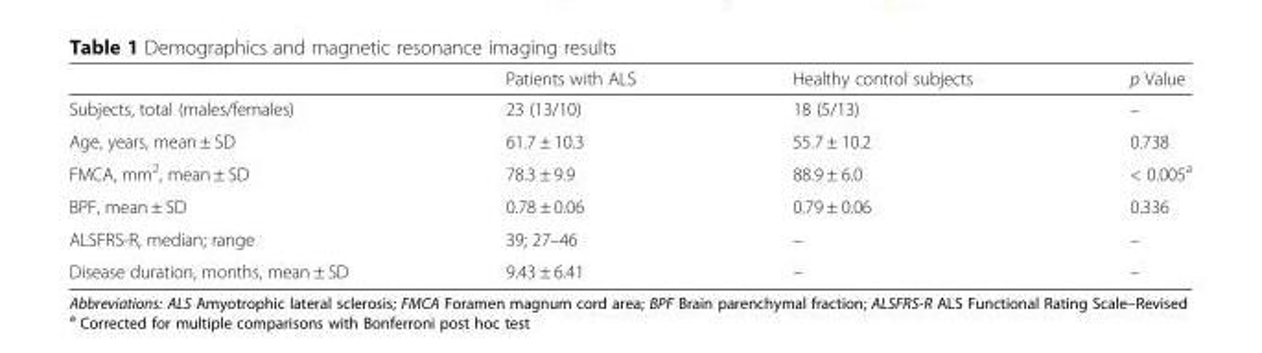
<table><thead><tr><td></td><td>Patients with ALS</td><td>Healthy control subjects</td><td>p Value</td></tr></thead><tbody><tr><td>Subjects, total (males/females)</td><td>23 (13/10)</td><td>18 (5/13)</td><td>–</td></tr><tr><td>Age, years, mean ± SD</td><td>61.7 ± 10.3</td><td>55.7 ± 10.2</td><td>0.738</td></tr><tr><td>FMCA, mm<sup>2</sup>, mean ± SD</td><td>78.3 ± 9.9</td><td>88.9 ± 6.0</td><td>&lt; 0.005<sup>a</sup></td></tr><tr><td>BPF, mean ± SD</td><td>0.78 ± 0.06</td><td>0.79 ± 0.06</td><td>0.336</td></tr><tr><td>ALSFRS-R, median; range</td><td>39; 27–46</td><td>–</td><td>–</td></tr><tr><td>Disease duration, months, mean ± SD</td><td>9.43 ± 6.41</td><td>–</td><td>–</td></tr></tbody></table>